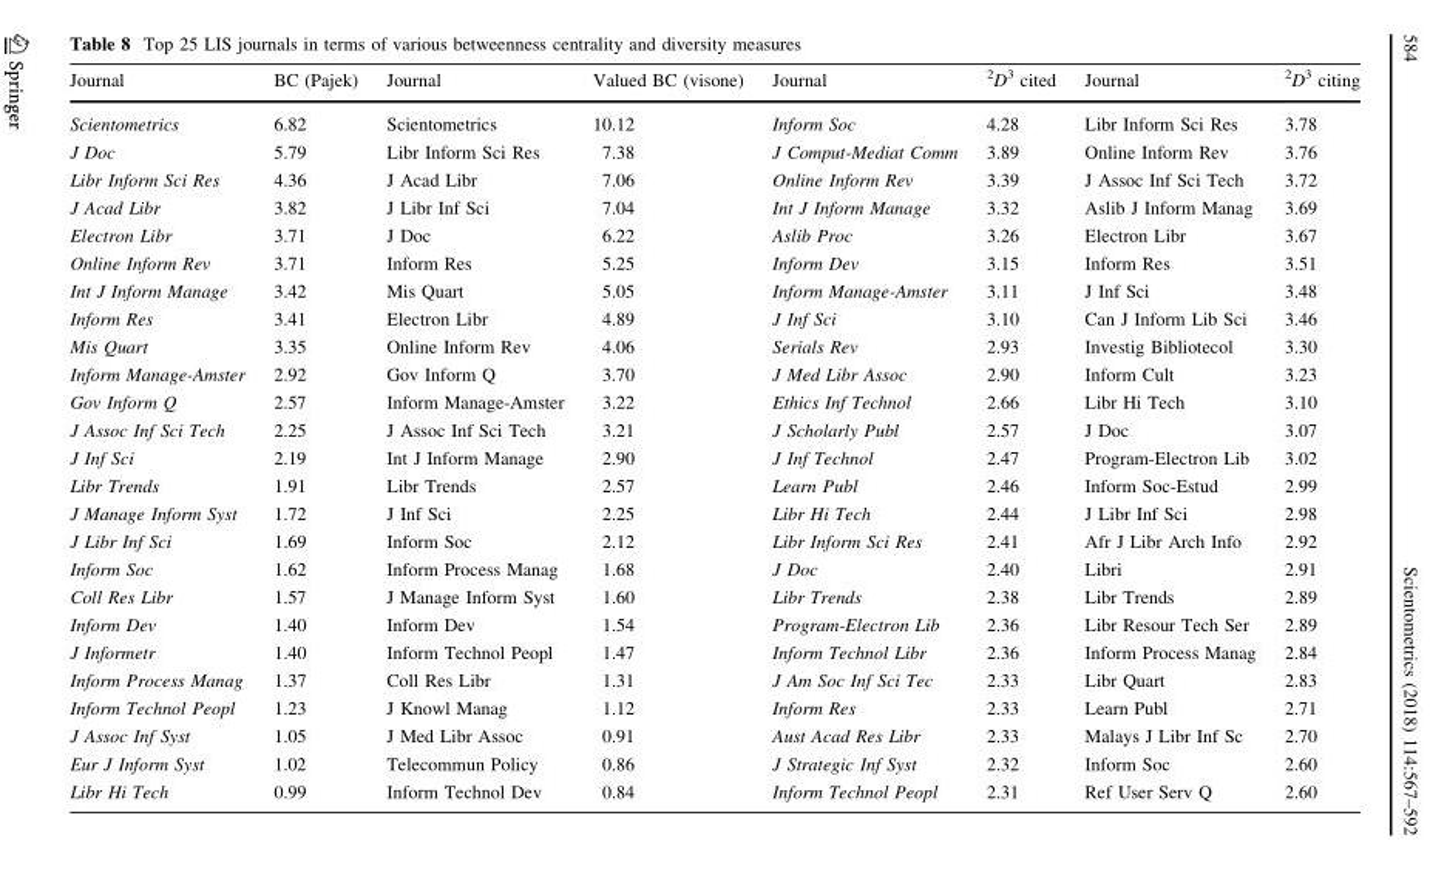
<table><thead><tr><td>Journal</td><td>BC (Pajek)</td><td>Journal</td><td>Valued BC (visone)</td><td>Journal</td><td><sup>2</sup>D<sup>3</sup> cited</td><td>Journal</td><td><sup>2</sup>D<sup>3</sup> citing</td></tr></thead><tbody><tr><td>Scientometrics</td><td>6.82</td><td>Scientometrics</td><td>10.12</td><td>Inform Soc</td><td>4.28</td><td>Libr Inform Sci Res</td><td>3.78</td></tr><tr><td>J Doc</td><td>5.79</td><td>Libr Inform Sci Res</td><td>7.38</td><td>J Comput-Mediat Comm</td><td>3.89</td><td>Online Inform Rev</td><td>3.76</td></tr><tr><td>Libr Inform Sci Res</td><td>4.36</td><td>J Acad Libr</td><td>7.06</td><td>Online Inform Rev</td><td>3.39</td><td>J Assoc Inf Sci Tech</td><td>3.72</td></tr><tr><td>J Acad Libr</td><td>3.82</td><td>J Libr Inf Sci</td><td>7.04</td><td>Int J Inform Manage</td><td>3.32</td><td>Aslib J Inform Manag</td><td>3.69</td></tr><tr><td>Electron Libr</td><td>3.71</td><td>J Doc</td><td>6.22</td><td>Aslib Proc</td><td>3.26</td><td>Electron Libr</td><td>3.67</td></tr><tr><td>Online Inform Rev</td><td>3.71</td><td>Inform Res</td><td>5.25</td><td>Inform Dev</td><td>3.15</td><td>Inform Res</td><td>3.51</td></tr><tr><td>Int J Inform Manage</td><td>3.42</td><td>Mis Quart</td><td>5.05</td><td>Inform Manage-Amster</td><td>3.11</td><td>J Inf Sci</td><td>3.48</td></tr><tr><td>Inform Res</td><td>3.41</td><td>Electron Libr</td><td>4.89</td><td>J Inf Sci</td><td>3.10</td><td>Can J Inform Lib Sci</td><td>3.46</td></tr><tr><td>Mis Quart</td><td>3.35</td><td>Online Inform Rev</td><td>4.06</td><td>Serials Rev</td><td>2.93</td><td>Investig Bibliotecol</td><td>3.30</td></tr><tr><td>Inform Manage-Amster</td><td>2.92</td><td>Gov Inform Q</td><td>3.70</td><td>J Med Libr Assoc</td><td>2.90</td><td>Inform Cult</td><td>3.23</td></tr><tr><td>Gov Inform Q</td><td>2.57</td><td>Inform Manage-Amster</td><td>3.22</td><td>Ethics Inf Technol</td><td>2.66</td><td>Libr Hi Tech</td><td>3.10</td></tr><tr><td>J Assoc Inf Sci Tech</td><td>2.25</td><td>J Assoc Inf Sci Tech</td><td>3.21</td><td>J Scholarly Publ</td><td>2.57</td><td>J Doc</td><td>3.07</td></tr><tr><td>J Inf Sci</td><td>2.19</td><td>Int J Inform Manage</td><td>2.90</td><td>J Inf Technol</td><td>2.47</td><td>Program-Electron Lib</td><td>3.02</td></tr><tr><td>Libr Trends</td><td>1.91</td><td>Libr Trends</td><td>2.57</td><td>Learn Publ</td><td>2.46</td><td>Inform Soc-Estud</td><td>2.99</td></tr><tr><td>J Manage Inform Syst</td><td>1.72</td><td>J Inf Sci</td><td>2.25</td><td>Libr Hi Tech</td><td>2.44</td><td>J Libr Inf Sci</td><td>2.98</td></tr><tr><td>J Libr Inf Sci</td><td>1.69</td><td>Inform Soc</td><td>2.12</td><td>Libr Inform Sci Res</td><td>2.41</td><td>Afr J Libr Arch Info</td><td>2.92</td></tr><tr><td>Inform Soc</td><td>1.62</td><td>Inform Process Manag</td><td>1.68</td><td>J Doc</td><td>2.40</td><td>Libri</td><td>2.91</td></tr><tr><td>Coll Res Libr</td><td>1.57</td><td>J Manage Inform Syst</td><td>1.60</td><td>Libr Trends</td><td>2.38</td><td>Libr Trends</td><td>2.89</td></tr><tr><td>Inform Dev</td><td>1.40</td><td>Inform Dev</td><td>1.54</td><td>Program-Electron Lib</td><td>2.36</td><td>Libr Resour Tech Ser</td><td>2.89</td></tr><tr><td>J Informetr</td><td>1.40</td><td>Inform Technol Peopl</td><td>1.47</td><td>Inform Technol Libr</td><td>2.36</td><td>Inform Process Manag</td><td>2.84</td></tr><tr><td>Inform Process Manag</td><td>1.37</td><td>Coll Res Libr</td><td>1.31</td><td>J Am Soc Inf Sci Tec</td><td>2.33</td><td>Libr Quart</td><td>2.83</td></tr><tr><td>Inform Technol Peopl</td><td>1.23</td><td>J Knowl Manag</td><td>1.12</td><td>Inform Res</td><td>2.33</td><td>Learn Publ</td><td>2.71</td></tr><tr><td>J Assoc Inf Syst</td><td>1.05</td><td>J Med Libr Assoc</td><td>0.91</td><td>Aust Acad Res Libr</td><td>2.33</td><td>Malays J Libr Inf Sc</td><td>2.70</td></tr><tr><td>Eur J Inform Syst</td><td>1.02</td><td>Telecommun Policy</td><td>0.86</td><td>J Strategic Inf Syst</td><td>2.32</td><td>Inform Soc</td><td>2.60</td></tr><tr><td>Libr Hi Tech</td><td>0.99</td><td>Inform Technol Dev</td><td>0.84</td><td>Inform Technol Peopl</td><td>2.31</td><td>Ref User Serv Q</td><td>2.60</td></tr></tbody></table>